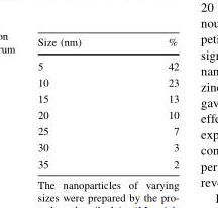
<table><thead><tr><td>Size (nm)</td><td>%</td></tr></thead><tbody><tr><td>5</td><td>42</td></tr><tr><td>10</td><td>23</td></tr><tr><td>15</td><td>13</td></tr><tr><td>20</td><td>10</td></tr><tr><td>25</td><td>7</td></tr><tr><td>30</td><td>3</td></tr><tr><td>35</td><td>2</td></tr></tbody></table>